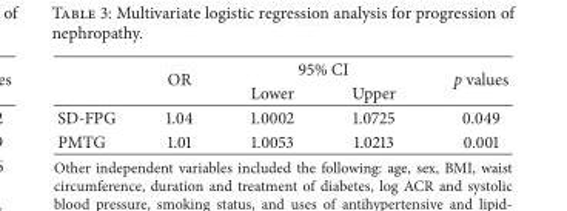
<table><thead><tr><td rowspan="2"></td><td rowspan="2">OR</td><td colspan="2">95% CI</td><td rowspan="2">p values</td></tr><tr><td>Lower</td><td>Upper</td></tr></thead><tbody><tr><td>SD-FPG</td><td>1.04</td><td>1.0002</td><td>1.0725</td><td>0.049</td></tr><tr><td>PMTG</td><td>1.01</td><td>1.0053</td><td>1.0213</td><td>0.001</td></tr></tbody></table>